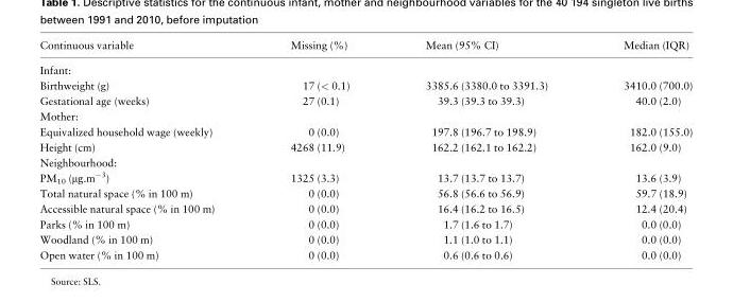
<table><thead><tr><td>Continuous variable</td><td>Missing (%)</td><td>Mean (95% CI)</td><td>Median (IQR)</td></tr></thead><tbody><tr><td colspan="4">Infant:</td></tr><tr><td>Birthweight (g)</td><td>17 (&lt; 0.1)</td><td>3385.6 (3380.0 to 3391.3)</td><td>3410.0 (700.0)</td></tr><tr><td>Gestational age (weeks)</td><td>27 (0.1)</td><td>39.3 (39.3 to 39.3)</td><td>40.0 (2.0)</td></tr><tr><td colspan="4">Mother:</td></tr><tr><td>Equivalized household wage (weekly)</td><td>0 (0.0)</td><td>197.8 (196.7 to 198.9)</td><td>182.0 (155.0)</td></tr><tr><td>Height (cm)</td><td>4268 (11.9)</td><td>162.2 (162.1 to 162.2)</td><td>162.0 (9.0)</td></tr><tr><td colspan="4">Neighbourhood:</td></tr><tr><td>PM<sub>10</sub> (µg.m<sup>−3</sup>)</td><td>1325 (3.3)</td><td>13.7 (13.7 to 13.7)</td><td>13.6 (3.9)</td></tr><tr><td>Total natural space (% in 100 m)</td><td>0 (0.0)</td><td>56.8 (56.6 to 56.9)</td><td>59.7 (18.9)</td></tr><tr><td>Accessible natural space (% in 100 m)</td><td>0 (0.0)</td><td>16.4 (16.2 to 16.5)</td><td>12.4 (20.4)</td></tr><tr><td>Parks (% in 100 m)</td><td>0 (0.0)</td><td>1.7 (1.6 to 1.7)</td><td>0.0 (0.0)</td></tr><tr><td>Woodland (% in 100 m)</td><td>0 (0.0)</td><td>1.1 (1.0 to 1.1)</td><td>0.0 (0.0)</td></tr><tr><td>Open water (% in 100 m)</td><td>0 (0.0)</td><td>0.6 (0.6 to 0.6)</td><td>0.0 (0.0)</td></tr></tbody></table>